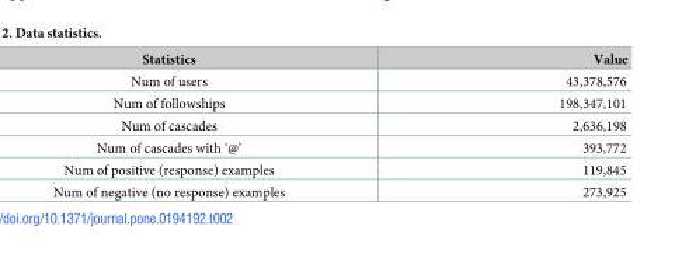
<table><thead><tr><td>Statistics</td><td>Value</td></tr></thead><tbody><tr><td>Num of users</td><td>43,378,576</td></tr><tr><td>Num of followships</td><td>198,347,101</td></tr><tr><td>Num of cascades</td><td>2,636,198</td></tr><tr><td>Num of cascades with ‘@’</td><td>393,772</td></tr><tr><td>Num of positive (response) examples</td><td>119,845</td></tr><tr><td>Num of negative (no response) examples</td><td>273,925</td></tr></tbody></table>